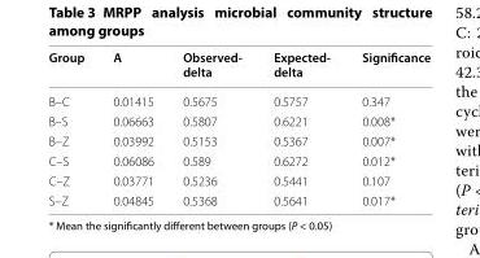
<table><thead><tr><td>Group</td><td>A</td><td>Observed‑ delta</td><td>Expected‑ delta</td><td>Significance</td></tr></thead><tbody><tr><td>B–C</td><td>0.01415</td><td>0.5675</td><td>0.5757</td><td>0.347</td></tr><tr><td>B–S</td><td>0.06663</td><td>0.5807</td><td>0.6221</td><td>0.008*</td></tr><tr><td>B–Z</td><td>0.03992</td><td>0.5153</td><td>0.5367</td><td>0.007*</td></tr><tr><td>C–S</td><td>0.06086</td><td>0.589</td><td>0.6272</td><td>0.012*</td></tr><tr><td>C–Z</td><td>0.03771</td><td>0.5236</td><td>0.5441</td><td>0.107</td></tr><tr><td>S–Z</td><td>0.04845</td><td>0.5368</td><td>0.5641</td><td>0.017*</td></tr></tbody></table>